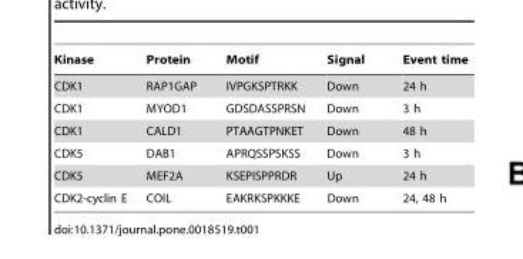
<table><thead><tr><td>Kinase</td><td>Protein</td><td>Motif</td><td>Signal</td><td>Event time</td></tr></thead><tbody><tr><td>CDK1</td><td>RAP1GAP</td><td>IVPGKSPTRKK</td><td>Down</td><td>24 h</td></tr><tr><td>CDK1</td><td>MYOD1</td><td>GDSDASSPRSN</td><td>Down</td><td>3 h</td></tr><tr><td>CDK1</td><td>CALD1</td><td>PTAAGTPNKET</td><td>Down</td><td>48 h</td></tr><tr><td>CDK5</td><td>DAB1</td><td>APRQSSPSKSS</td><td>Down</td><td>3 h</td></tr><tr><td>CDK5</td><td>MEF2A</td><td>KSEPISPPRDR</td><td>Up</td><td>24 h</td></tr><tr><td>CDK2-cyclin E</td><td>COIL</td><td>EAKRKSPKKKE</td><td>Down</td><td>24, 48 h</td></tr></tbody></table>